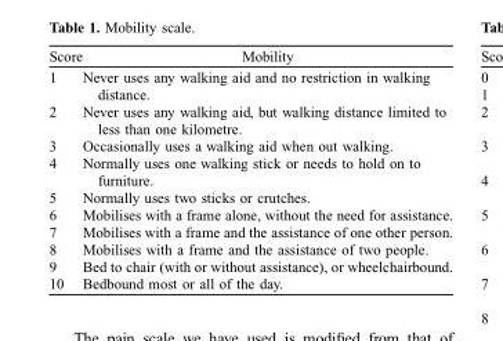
<table><thead><tr><td>Score</td><td>Mobility</td></tr></thead><tbody><tr><td>1</td><td>Never uses any walking aid and no restriction in walking distance.</td></tr><tr><td>2</td><td>Never uses any walking aid, but walking distance limited to less than one kilometre.</td></tr><tr><td>3</td><td>Occasionally uses a walking aid when out walking.</td></tr><tr><td>4</td><td>Normally uses one walking stick or needs to hold on to furniture.</td></tr><tr><td>5</td><td>Normally uses two sticks or crutches.</td></tr><tr><td>6</td><td>Mobilises with a frame alone, without the need for assistance.</td></tr><tr><td>7</td><td>Mobilises with a frame and the assistance of one other person.</td></tr><tr><td>8</td><td>Mobilises with a frame and the assistance of two people.</td></tr><tr><td>9</td><td>Bed to chair (with or without assistance), or wheelchairbound.</td></tr><tr><td>10</td><td>Bedbound most or all of the day.</td></tr></tbody></table>